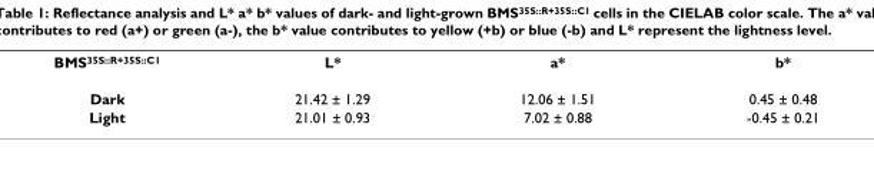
<table><tbody><tr><td>BMS<sup>35S::R+35S::C1</sup></td><td>L*</td><td>a*</td><td>b*</td></tr><tr><td>Dark</td><td>21.42 ± 1.29</td><td>12.06 ± 1.51</td><td>0.45 ± 0.48</td></tr><tr><td>Light</td><td>21.01 ± 0.93</td><td>7.02 ± 0.88</td><td>-0.45 ± 0.21</td></tr></tbody></table>